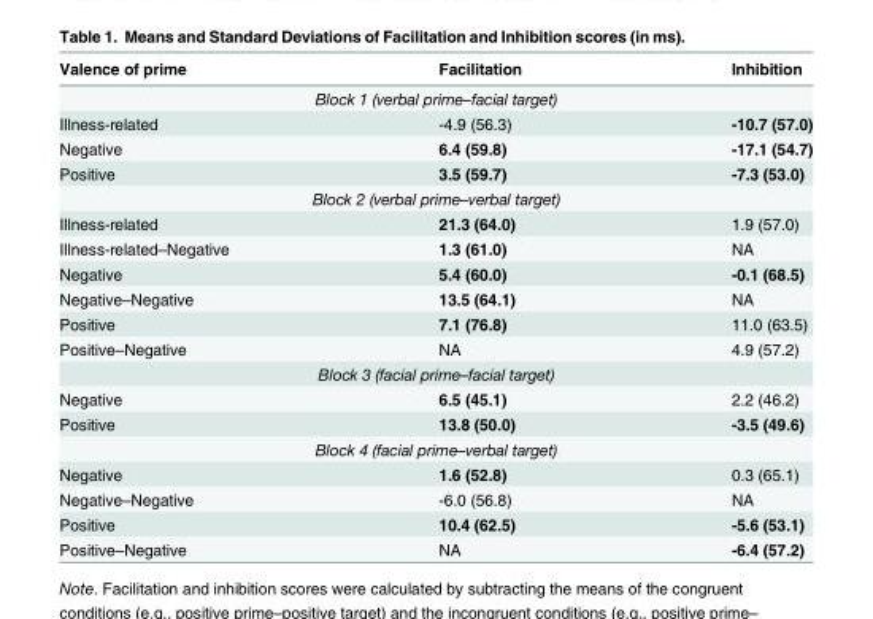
<table><thead><tr><td>Valence of prime</td><td>Facilitation</td><td>Inhibition</td></tr></thead><tbody><tr><td colspan="3">Block 1 (verbal prime–facial target)</td></tr><tr><td>Illness-related</td><td>-4.9 (56.3)</td><td>-10.7 (57.0)</td></tr><tr><td>Negative</td><td>6.4 (59.8)</td><td>-17.1 (54.7)</td></tr><tr><td>Positive</td><td>3.5 (59.7)</td><td>-7.3 (53.0)</td></tr><tr><td colspan="3">Block 2 (verbal prime–verbal target)</td></tr><tr><td>Illness-related</td><td>21.3 (64.0)</td><td>1.9 (57.0)</td></tr><tr><td>Illness-related–Negative</td><td>1.3 (61.0)</td><td>NA</td></tr><tr><td>Negative</td><td>5.4 (60.0)</td><td>-0.1 (68.5)</td></tr><tr><td>Negative–Negative</td><td>13.5 (64.1)</td><td>NA</td></tr><tr><td>Positive</td><td>7.1 (76.8)</td><td>11.0 (63.5)</td></tr><tr><td>Positive–Negative</td><td>NA</td><td>4.9 (57.2)</td></tr><tr><td colspan="3">Block 3 (facial prime–facial target)</td></tr><tr><td>Negative</td><td>6.5 (45.1)</td><td>2.2 (46.2)</td></tr><tr><td>Positive</td><td>13.8 (50.0)</td><td>-3.5 (49.6)</td></tr><tr><td colspan="3">Block 4 (facial prime–verbal target)</td></tr><tr><td>Negative</td><td>1.6 (52.8)</td><td>0.3 (65.1)</td></tr><tr><td>Negative–Negative</td><td>-6.0 (56.8)</td><td>NA</td></tr><tr><td>Positive</td><td>10.4 (62.5)</td><td>-5.6 (53.1)</td></tr><tr><td>Positive–Negative</td><td>NA</td><td>-6.4 (57.2)</td></tr></tbody></table>